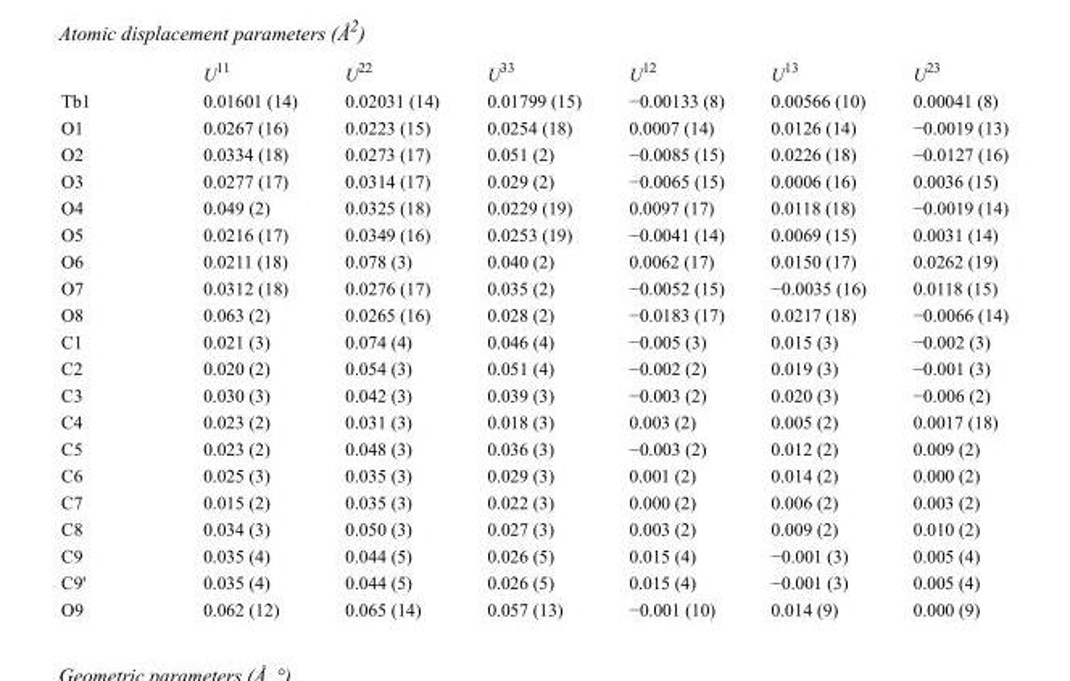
<table><thead><tr><td></td><td>U<sup>11</sup></td><td>U<sup>22</sup></td><td>U<sup>33</sup></td><td>U<sup>12</sup></td><td>U<sup>13</sup></td><td>U<sup>23</sup></td></tr></thead><tbody><tr><td>Tb1</td><td>0.01601 (14)</td><td>0.02031 (14)</td><td>0.01799 (15)</td><td>−0.00133 (8)</td><td>0.00566 (10)</td><td>0.00041 (8)</td></tr><tr><td>O1</td><td>0.0267 (16)</td><td>0.0223 (15)</td><td>0.0254 (18)</td><td>0.0007 (14)</td><td>0.0126 (14)</td><td>−0.0019 (13)</td></tr><tr><td>O2</td><td>0.0334 (18)</td><td>0.0273 (17)</td><td>0.051 (2)</td><td>−0.0085 (15)</td><td>0.0226 (18)</td><td>−0.0127 (16)</td></tr><tr><td>O3</td><td>0.0277 (17)</td><td>0.0314 (17)</td><td>0.029 (2)</td><td>−0.0065 (15)</td><td>0.0006 (16)</td><td>0.0036 (15)</td></tr><tr><td>O4</td><td>0.049 (2)</td><td>0.0325 (18)</td><td>0.0229 (19)</td><td>0.0097 (17)</td><td>0.0118 (18)</td><td>−0.0019 (14)</td></tr><tr><td>O5</td><td>0.0216 (17)</td><td>0.0349 (16)</td><td>0.0253 (19)</td><td>−0.0041 (14)</td><td>0.0069 (15)</td><td>0.0031 (14)</td></tr><tr><td>O6</td><td>0.0211 (18)</td><td>0.078 (3)</td><td>0.040 (2)</td><td>0.0062 (17)</td><td>0.0150 (17)</td><td>0.0262 (19)</td></tr><tr><td>O7</td><td>0.0312 (18)</td><td>0.0276 (17)</td><td>0.035 (2)</td><td>−0.0052 (15)</td><td>−0.0035 (16)</td><td>0.0118 (15)</td></tr><tr><td>O8</td><td>0.063 (2)</td><td>0.0265 (16)</td><td>0.028 (2)</td><td>−0.0183 (17)</td><td>0.0217 (18)</td><td>−0.0066 (14)</td></tr><tr><td>C1</td><td>0.021 (3)</td><td>0.074 (4)</td><td>0.046 (4)</td><td>−0.005 (3)</td><td>0.015 (3)</td><td>−0.002 (3)</td></tr><tr><td>C2</td><td>0.020 (2)</td><td>0.054 (3)</td><td>0.051 (4)</td><td>−0.002 (2)</td><td>0.019 (3)</td><td>−0.001 (3)</td></tr><tr><td>C3</td><td>0.030 (3)</td><td>0.042 (3)</td><td>0.039 (3)</td><td>−0.003 (2)</td><td>0.020 (3)</td><td>−0.006 (2)</td></tr><tr><td>C4</td><td>0.023 (2)</td><td>0.031 (3)</td><td>0.018 (3)</td><td>0.003 (2)</td><td>0.005 (2)</td><td>0.0017 (18)</td></tr><tr><td>C5</td><td>0.023 (2)</td><td>0.048 (3)</td><td>0.036 (3)</td><td>−0.003 (2)</td><td>0.012 (2)</td><td>0.009 (2)</td></tr><tr><td>C6</td><td>0.025 (3)</td><td>0.035 (3)</td><td>0.029 (3)</td><td>0.001 (2)</td><td>0.014 (2)</td><td>0.000 (2)</td></tr><tr><td>C7</td><td>0.015 (2)</td><td>0.035 (3)</td><td>0.022 (3)</td><td>0.000 (2)</td><td>0.006 (2)</td><td>0.003 (2)</td></tr><tr><td>C8</td><td>0.034 (3)</td><td>0.050 (3)</td><td>0.027 (3)</td><td>0.003 (2)</td><td>0.009 (2)</td><td>0.010 (2)</td></tr><tr><td>C9</td><td>0.035 (4)</td><td>0.044 (5)</td><td>0.026 (5)</td><td>0.015 (4)</td><td>−0.001 (3)</td><td>0.005 (4)</td></tr><tr><td>C9&#x27;</td><td>0.035 (4)</td><td>0.044 (5)</td><td>0.026 (5)</td><td>0.015 (4)</td><td>−0.001 (3)</td><td>0.005 (4)</td></tr><tr><td>O9</td><td>0.062 (12)</td><td>0.065 (14)</td><td>0.057 (13)</td><td>−0.001 (10)</td><td>0.014 (9)</td><td>0.000 (9)</td></tr></tbody></table>